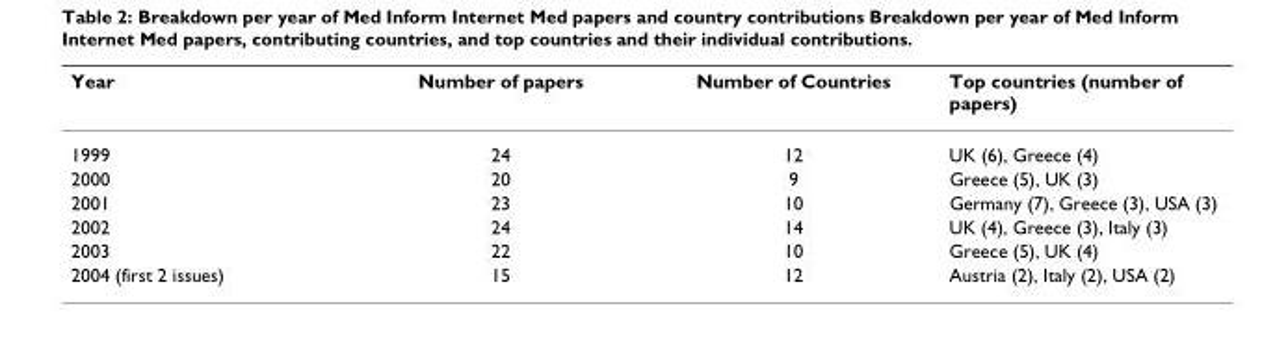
<table><thead><tr><td>Year</td><td>Number of papers</td><td>Number of Countries</td><td>Top countries (number of papers)</td></tr></thead><tbody><tr><td>1999</td><td>24</td><td>12</td><td>UK (6), Greece (4)</td></tr><tr><td>2000</td><td>20</td><td>9</td><td>Greece (5), UK (3)</td></tr><tr><td>2001</td><td>23</td><td>10</td><td>Germany (7), Greece (3), USA (3)</td></tr><tr><td>2002</td><td>24</td><td>14</td><td>UK (4), Greece (3), Italy (3)</td></tr><tr><td>2003</td><td>22</td><td>10</td><td>Greece (5), UK (4)</td></tr><tr><td>2004 (first 2 issues)</td><td>15</td><td>12</td><td>Austria (2), Italy (2), USA (2)</td></tr></tbody></table>